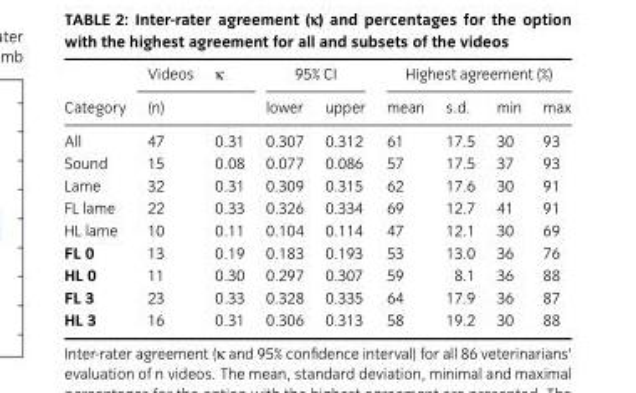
<table><thead><tr><td rowspan="2">Category</td><td rowspan="2">Videos (n)</td><td rowspan="2">κ</td><td colspan="2">95% CI</td><td colspan="4">Highest agreement (%)</td></tr><tr><td>lower</td><td>upper</td><td>mean</td><td>s.d.</td><td>min</td><td>max</td></tr></thead><tbody><tr><td>All</td><td>47</td><td>0.31</td><td>0.307</td><td>0.312</td><td>61</td><td>17.5</td><td>30</td><td>93</td></tr><tr><td>Sound</td><td>15</td><td>0.08</td><td>0.077</td><td>0.086</td><td>57</td><td>17.5</td><td>37</td><td>93</td></tr><tr><td>Lame</td><td>32</td><td>0.31</td><td>0.309</td><td>0.315</td><td>62</td><td>17.6</td><td>30</td><td>91</td></tr><tr><td>FL lame</td><td>22</td><td>0.33</td><td>0.326</td><td>0.334</td><td>69</td><td>12.7</td><td>41</td><td>91</td></tr><tr><td>HL lame</td><td>10</td><td>0.11</td><td>0.104</td><td>0.114</td><td>47</td><td>12.1</td><td>30</td><td>69</td></tr><tr><td>FL 0</td><td>13</td><td>0.19</td><td>0.183</td><td>0.193</td><td>53</td><td>13.0</td><td>36</td><td>76</td></tr><tr><td>HL 0</td><td>11</td><td>0.30</td><td>0.297</td><td>0.307</td><td>59</td><td>8.1</td><td>36</td><td>88</td></tr><tr><td>FL 3</td><td>23</td><td>0.33</td><td>0.328</td><td>0.335</td><td>64</td><td>17.9</td><td>36</td><td>87</td></tr><tr><td>HL 3</td><td>16</td><td>0.31</td><td>0.306</td><td>0.313</td><td>58</td><td>19.2</td><td>30</td><td>88</td></tr></tbody></table>